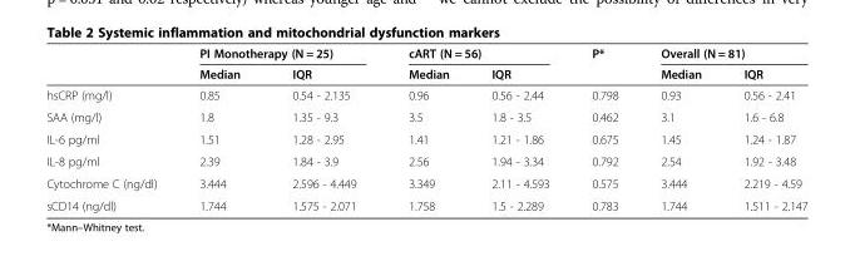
<table><thead><tr><td rowspan="2"></td><td colspan="2">PI Monotherapy (N = 25)</td><td colspan="2">cART (N = 56)</td><td rowspan="2">P*</td><td colspan="2">Overall (N = 81)</td></tr><tr><td>Median</td><td>IQR</td><td>Median</td><td>IQR</td><td>Median</td><td>IQR</td></tr></thead><tbody><tr><td>hsCRP (mg/l)</td><td>0.85</td><td>0.54 - 2.135</td><td>0.96</td><td>0.56 - 2.44</td><td>0.798</td><td>0.93</td><td>0.56 - 2.41</td></tr><tr><td>SAA (mg/l)</td><td>1.8</td><td>1.35 - 9.3</td><td>3.5</td><td>1.8 - 3.5</td><td>0.462</td><td>3.1</td><td>1.6 - 6.8</td></tr><tr><td>IL-6 pg/ml</td><td>1.51</td><td>1.28 - 2.95</td><td>1.41</td><td>1.21 - 1.86</td><td>0.675</td><td>1.45</td><td>1.24 - 1.87</td></tr><tr><td>IL-8 pg/ml</td><td>2.39</td><td>1.84 - 3.9</td><td>2.56</td><td>1.94 - 3.34</td><td>0.792</td><td>2.54</td><td>1.92 - 3.48</td></tr><tr><td>Cytochrome C (ng/dl)</td><td>3.444</td><td>2.596 - 4.449</td><td>3.349</td><td>2.11 - 4.593</td><td>0.575</td><td>3.444</td><td>2.219 - 4.59</td></tr><tr><td>sCD14 (ng/dl)</td><td>1.744</td><td>1.575 - 2.071</td><td>1.758</td><td>1.5 - 2.289</td><td>0.783</td><td>1.744</td><td>1.511 - 2.147</td></tr></tbody></table>